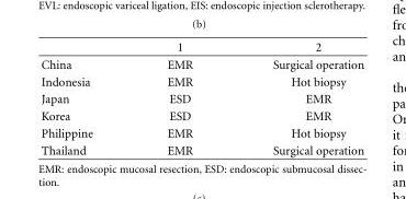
<table><thead><tr><td></td><td>1</td><td>2</td></tr></thead><tbody><tr><td>China</td><td>EMR</td><td>Surgical operation</td></tr><tr><td>Indonesia</td><td>EMR</td><td>Hot biopsy</td></tr><tr><td>Japan</td><td>ESD</td><td>EMR</td></tr><tr><td>Korea</td><td>ESD</td><td>EMR</td></tr><tr><td>Philippine</td><td>EMR</td><td>Hot biopsy</td></tr><tr><td>Thailand</td><td>EMR</td><td>Surgical operation</td></tr></tbody></table>